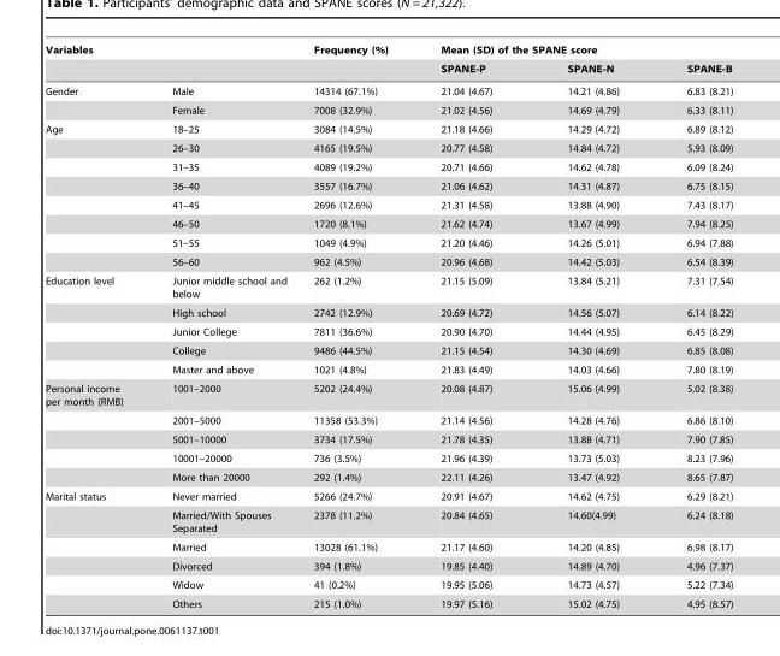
<table><thead><tr><td colspan="2">Variables</td><td rowspan="2">Frequency (%)</td><td colspan="3">Mean (SD) of the SPANE score</td></tr><tr><td></td><td></td><td>SPANE-P</td><td>SPANE-N</td><td>SPANE-B</td></tr></thead><tbody><tr><td rowspan="2">Gender</td><td>Male</td><td>14314 (67.1%)</td><td>21.04 (4.67)</td><td>14.21 (4.86)</td><td>6.83 (8.21)</td></tr><tr><td>Female</td><td>7008 (32.9%)</td><td>21.02 (4.56)</td><td>14.69 (4.79)</td><td>6.33 (8.11)</td></tr><tr><td rowspan="8">Age</td><td>18–25</td><td>3084 (14.5%)</td><td>21.18 (4.66)</td><td>14.29 (4.72)</td><td>6.89 (8.12)</td></tr><tr><td>26–30</td><td>4165 (19.5%)</td><td>20.77 (4.58)</td><td>14.84 (4.72)</td><td>5.93 (8.09)</td></tr><tr><td>31–35</td><td>4089 (19.2%)</td><td>20.71 (4.66)</td><td>14.62 (4.78)</td><td>6.09 (8.24)</td></tr><tr><td>36–40</td><td>3557 (16.7%)</td><td>21.06 (4.62)</td><td>14.31 (4.87)</td><td>6.75 (8.15)</td></tr><tr><td>41–45</td><td>2696 (12.6%)</td><td>21.31 (4.58)</td><td>13.88 (4.90)</td><td>7.43 (8.17)</td></tr><tr><td>46–50</td><td>1720 (8.1%)</td><td>21.62 (4.74)</td><td>13.67 (4.99)</td><td>7.94 (8.25)</td></tr><tr><td>51–55</td><td>1049 (4.9%)</td><td>21.20 (4.46)</td><td>14.26 (5.01)</td><td>6.94 (7.88)</td></tr><tr><td>56–60</td><td>962 (4.5%)</td><td>20.96 (4.68)</td><td>14.42 (5.03)</td><td>6.54 (8.39)</td></tr><tr><td rowspan="5">Education level</td><td>Junior middle school and below</td><td>262 (1.2%)</td><td>21.15 (5.09)</td><td>13.84 (5.21)</td><td>7.31 (7.54)</td></tr><tr><td>High school</td><td>2742 (12.9%)</td><td>20.69 (4.72)</td><td>14.56 (5.07)</td><td>6.14 (8.22)</td></tr><tr><td>Junior College</td><td>7811 (36.6%)</td><td>20.90 (4.70)</td><td>14.44 (4.95)</td><td>6.45 (8.29)</td></tr><tr><td>College</td><td>9486 (44.5%)</td><td>21.15 (4.54)</td><td>14.30 (4.69)</td><td>6.85 (8.08)</td></tr><tr><td>Master and above</td><td>1021 (4.8%)</td><td>21.83 (4.49)</td><td>14.03 (4.66)</td><td>7.80 (8.19)</td></tr><tr><td rowspan="5">Personal income per month (RMB)</td><td>1001–2000</td><td>5202 (24.4%)</td><td>20.08 (4.87)</td><td>15.06 (4.99)</td><td>5.02 (8.38)</td></tr><tr><td>2001–5000</td><td>11358 (53.3%)</td><td>21.14 (4.56)</td><td>14.28 (4.76)</td><td>6.86 (8.10)</td></tr><tr><td>5001–10000</td><td>3734 (17.5%)</td><td>21.78 (4.35)</td><td>13.88 (4.71)</td><td>7.90 (7.85)</td></tr><tr><td>10001–20000</td><td>736 (3.5%)</td><td>21.96 (4.39)</td><td>13.73 (5.03)</td><td>8.23 (7.96)</td></tr><tr><td>More than 20000</td><td>292 (1.4%)</td><td>22.11 (4.26)</td><td>13.47 (4.92)</td><td>8.65 (7.87)</td></tr><tr><td rowspan="6">Marital status</td><td>Never married</td><td>5266 (24.7%)</td><td>20.91 (4.67)</td><td>14.62 (4.75)</td><td>6.29 (8.21)</td></tr><tr><td>Married/With Spouses Separated</td><td>2378 (11.2%)</td><td>20.84 (4.65)</td><td>14.60(4.99)</td><td>6.24 (8.18)</td></tr><tr><td>Married</td><td>13028 (61.1%)</td><td>21.17 (4.60)</td><td>14.20 (4.85)</td><td>6.98 (8.17)</td></tr><tr><td>Divorced</td><td>394 (1.8%)</td><td>19.85 (4.40)</td><td>14.89 (4.70)</td><td>4.96 (7.37)</td></tr><tr><td>Widow</td><td>41 (0.2%)</td><td>19.95 (5.06)</td><td>14.73 (4.57)</td><td>5.22 (7.34)</td></tr><tr><td>Others</td><td>215 (1.0%)</td><td>19.97 (5.16)</td><td>15.02 (4.75)</td><td>4.95 (8.57)</td></tr></tbody></table>